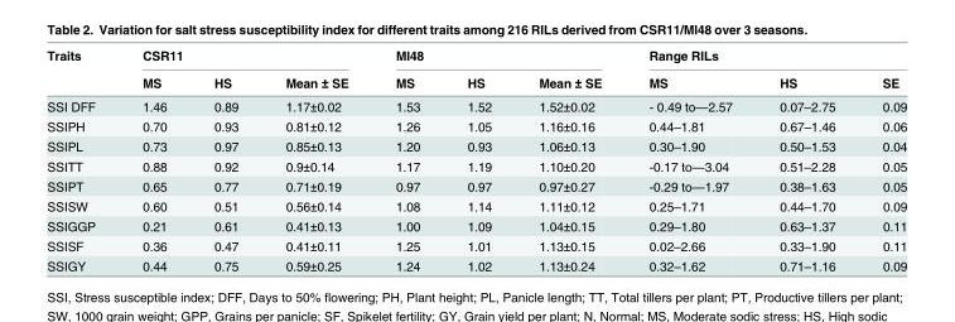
<table><thead><tr><td rowspan="2">Traits</td><td colspan="3">CSR11</td><td colspan="3">MI48</td><td colspan="3">Range RILs</td></tr><tr><td>MS</td><td>HS</td><td>Mean ± SE</td><td>MS</td><td>HS</td><td>Mean ± SE</td><td>MS</td><td>HS</td><td>SE</td></tr></thead><tbody><tr><td>SSI DFF</td><td>1.46</td><td>0.89</td><td>1.17±0.02</td><td>1.53</td><td>1.52</td><td>1.52±0.02</td><td>- 0.49 to—2.57</td><td>0.07–2.75</td><td>0.09</td></tr><tr><td>SSIPH</td><td>0.70</td><td>0.93</td><td>0.81±0.12</td><td>1.26</td><td>1.05</td><td>1.16±0.16</td><td>0.44–1.81</td><td>0.67–1.46</td><td>0.06</td></tr><tr><td>SSIPL</td><td>0.73</td><td>0.97</td><td>0.85±0.13</td><td>1.20</td><td>0.93</td><td>1.06±0.13</td><td>0.30–1.90</td><td>0.50–1.53</td><td>0.04</td></tr><tr><td>SSITT</td><td>0.88</td><td>0.92</td><td>0.9±0.14</td><td>1.17</td><td>1.19</td><td>1.10±0.20</td><td>-0.17 to—3.04</td><td>0.51–2.28</td><td>0.05</td></tr><tr><td>SSIPT</td><td>0.65</td><td>0.77</td><td>0.71±0.19</td><td>0.97</td><td>0.97</td><td>0.97±0.27</td><td>-0.29 to—1.97</td><td>0.38–1.63</td><td>0.05</td></tr><tr><td>SSISW</td><td>0.60</td><td>0.51</td><td>0.56±0.14</td><td>1.08</td><td>1.14</td><td>1.11±0.12</td><td>0.25–1.71</td><td>0.44–1.70</td><td>0.09</td></tr><tr><td>SSIGGP</td><td>0.21</td><td>0.61</td><td>0.41±0.13</td><td>1.00</td><td>1.09</td><td>1.04±0.15</td><td>0.29–1.80</td><td>0.63–1.37</td><td>0.11</td></tr><tr><td>SSISF</td><td>0.36</td><td>0.47</td><td>0.41±0.11</td><td>1.25</td><td>1.01</td><td>1.13±0.15</td><td>0.02–2.66</td><td>0.33–1.90</td><td>0.11</td></tr><tr><td>SSIGY</td><td>0.44</td><td>0.75</td><td>0.59±0.25</td><td>1.24</td><td>1.02</td><td>1.13±0.24</td><td>0.32–1.62</td><td>0.71–1.16</td><td>0.09</td></tr></tbody></table>